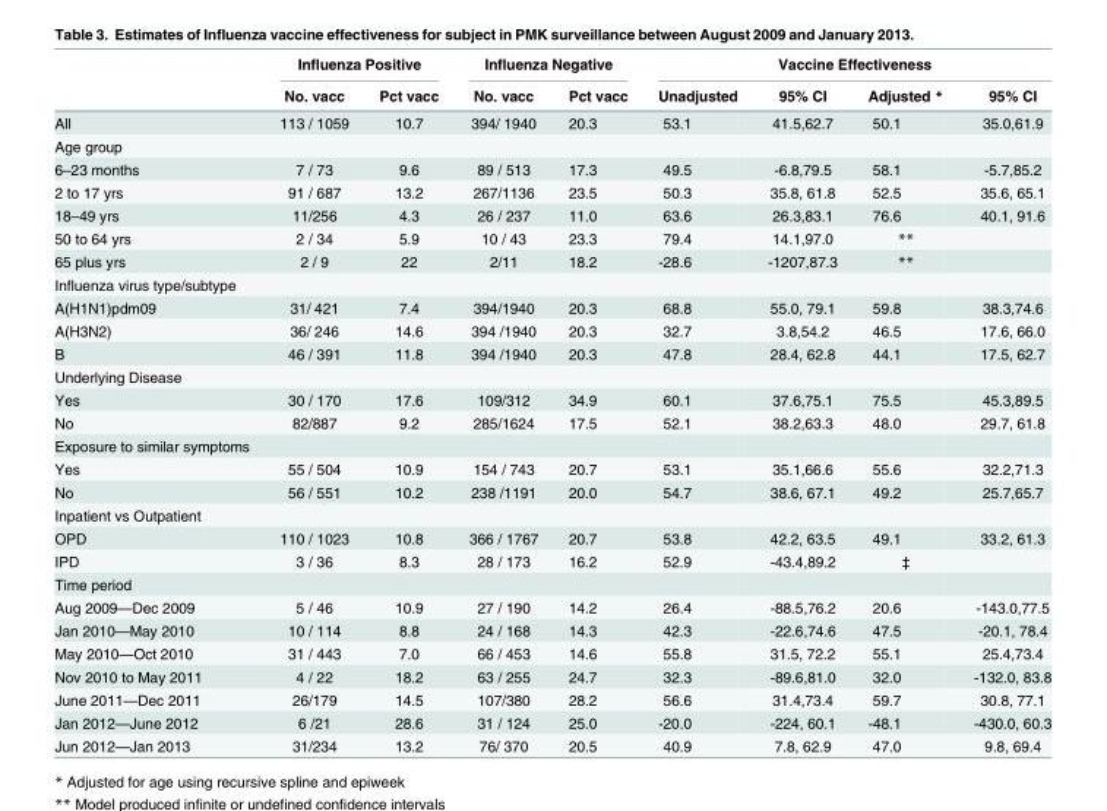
<table><thead><tr><td rowspan="2"></td><td colspan="2">Influenza Positive</td><td colspan="2">Influenza Negative</td><td colspan="4">Vaccine Effectiveness</td></tr><tr><td>No. vacc</td><td>Pct vacc</td><td>No. vacc</td><td>Pct vacc</td><td>Unadjusted</td><td>95% CI</td><td>Adjusted *</td><td>95% CI</td></tr></thead><tbody><tr><td>All</td><td>113 / 1059</td><td>10.7</td><td>394/ 1940</td><td>20.3</td><td>53.1</td><td>41.5,62.7</td><td>50.1</td><td>35.0,61.9</td></tr><tr><td colspan="9">Age group</td></tr><tr><td>6–23 months</td><td>7 / 73</td><td>9.6</td><td>89 / 513</td><td>17.3</td><td>49.5</td><td>-6.8,79.5</td><td>58.1</td><td>-5.7,85.2</td></tr><tr><td>2 to 17 yrs</td><td>91 / 687</td><td>13.2</td><td>267/1136</td><td>23.5</td><td>50.3</td><td>35.8, 61.8</td><td>52.5</td><td>35.6, 65.1</td></tr><tr><td>18–49 yrs</td><td>11/256</td><td>4.3</td><td>26 / 237</td><td>11.0</td><td>63.6</td><td>26.3,83.1</td><td>76.6</td><td>40.1, 91.6</td></tr><tr><td>50 to 64 yrs</td><td>2 / 34</td><td>5.9</td><td>10 / 43</td><td>23.3</td><td>79.4</td><td>14.1,97.0</td><td>**</td><td></td></tr><tr><td>65 plus yrs</td><td>2 / 9</td><td>22</td><td>2/11</td><td>18.2</td><td>-28.6</td><td>-1207,87.3</td><td>**</td><td></td></tr><tr><td colspan="9">Influenza virus type/subtype</td></tr><tr><td>A(H1N1)pdm09</td><td>31/ 421</td><td>7.4</td><td>394/1940</td><td>20.3</td><td>68.8</td><td>55.0, 79.1</td><td>59.8</td><td>38.3,74.6</td></tr><tr><td>A(H3N2)</td><td>36/ 246</td><td>14.6</td><td>394 /1940</td><td>20.3</td><td>32.7</td><td>3.8,54.2</td><td>46.5</td><td>17.6, 66.0</td></tr><tr><td>B</td><td>46 / 391</td><td>11.8</td><td>394 /1940</td><td>20.3</td><td>47.8</td><td>28.4, 62.8</td><td>44.1</td><td>17.5, 62.7</td></tr><tr><td colspan="9">Underlying Disease</td></tr><tr><td>Yes</td><td>30 / 170</td><td>17.6</td><td>109/312</td><td>34.9</td><td>60.1</td><td>37.6,75.1</td><td>75.5</td><td>45.3,89.5</td></tr><tr><td>No</td><td>82/887</td><td>9.2</td><td>285/1624</td><td>17.5</td><td>52.1</td><td>38.2,63.3</td><td>48.0</td><td>29.7, 61.8</td></tr><tr><td colspan="9">Exposure to similar symptoms</td></tr><tr><td>Yes</td><td>55 / 504</td><td>10.9</td><td>154 / 743</td><td>20.7</td><td>53.1</td><td>35.1,66.6</td><td>55.6</td><td>32.2,71.3</td></tr><tr><td>No</td><td>56 / 551</td><td>10.2</td><td>238 /1191</td><td>20.0</td><td>54.7</td><td>38.6, 67.1</td><td>49.2</td><td>25.7,65.7</td></tr><tr><td colspan="9">Inpatient vs Outpatient</td></tr><tr><td>OPD</td><td>110 / 1023</td><td>10.8</td><td>366 / 1767</td><td>20.7</td><td>53.8</td><td>42.2, 63.5</td><td>49.1</td><td>33.2, 61.3</td></tr><tr><td>IPD</td><td>3 / 36</td><td>8.3</td><td>28 / 173</td><td>16.2</td><td>52.9</td><td>-43.4,89.2</td><td>‡</td><td></td></tr><tr><td colspan="9">Time period</td></tr><tr><td>Aug 2009—Dec 2009</td><td>5 / 46</td><td>10.9</td><td>27 / 190</td><td>14.2</td><td>26.4</td><td>-88.5,76.2</td><td>20.6</td><td>-143.0,77.5</td></tr><tr><td>Jan 2010—May 2010</td><td>10 / 114</td><td>8.8</td><td>24 / 168</td><td>14.3</td><td>42.3</td><td>-22.6,74.6</td><td>47.5</td><td>-20.1, 78.4</td></tr><tr><td>May 2010—Oct 2010</td><td>31 / 443</td><td>7.0</td><td>66 / 453</td><td>14.6</td><td>55.8</td><td>31.5, 72.2</td><td>55.1</td><td>25.4,73.4</td></tr><tr><td>Nov 2010 to May 2011</td><td>4 / 22</td><td>18.2</td><td>63 / 255</td><td>24.7</td><td>32.3</td><td>-89.6,81.0</td><td>32.0</td><td>-132.0, 83.8</td></tr><tr><td>June 2011—Dec 2011</td><td>26/179</td><td>14.5</td><td>107/380</td><td>28.2</td><td>56.6</td><td>31.4,73.4</td><td>59.7</td><td>30.8, 77.1</td></tr><tr><td>Jan 2012—June 2012</td><td>6 /21</td><td>28.6</td><td>31 / 124</td><td>25.0</td><td>-20.0</td><td>-224, 60.1</td><td>-48.1</td><td>-430.0, 60.3</td></tr><tr><td>Jun 2012—Jan 2013</td><td>31/234</td><td>13.2</td><td>76/ 370</td><td>20.5</td><td>40.9</td><td>7.8, 62.9</td><td>47.0</td><td>9.8, 69.4</td></tr></tbody></table>